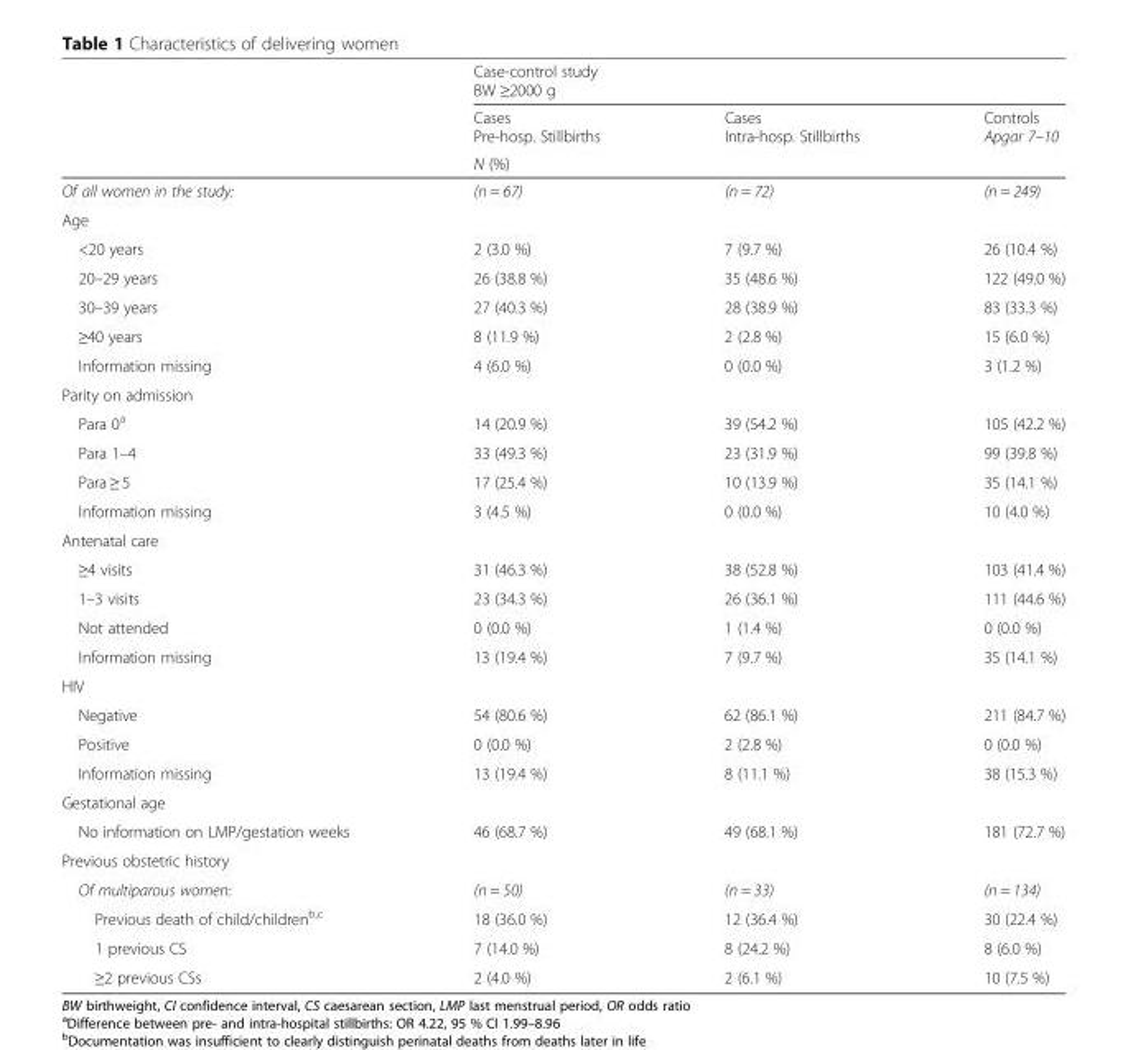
<table><thead><tr><td rowspan="3"></td><td colspan="3">Case-control study BW ≥2000 g</td></tr><tr><td>Cases Pre-hosp. Stillbirths</td><td>Cases Intra-hosp. Stillbirths</td><td>Controls Apgar 7–10</td></tr><tr><td colspan="3">N (%)</td></tr></thead><tbody><tr><td>Of all women in the study:</td><td>(n = 67)</td><td>(n = 72)</td><td>(n = 249)</td></tr><tr><td colspan="4">Age</td></tr><tr><td>&lt;20 years</td><td>2 (3.0 %)</td><td>7 (9.7 %)</td><td>26 (10.4 %)</td></tr><tr><td>20–29 years</td><td>26 (38.8 %)</td><td>35 (48.6 %)</td><td>122 (49.0 %)</td></tr><tr><td>30–39 years</td><td>27 (40.3 %)</td><td>28 (38.9 %)</td><td>83 (33.3 %)</td></tr><tr><td>≥40 years</td><td>8 (11.9 %)</td><td>2 (2.8 %)</td><td>15 (6.0 %)</td></tr><tr><td>Information missing</td><td>4 (6.0 %)</td><td>0 (0.0 %)</td><td>3 (1.2 %)</td></tr><tr><td colspan="4">Parity on admission</td></tr><tr><td>Para 0<sup>a</sup></td><td>14 (20.9 %)</td><td>39 (54.2 %)</td><td>105 (42.2 %)</td></tr><tr><td>Para 1–4</td><td>33 (49.3 %)</td><td>23 (31.9 %)</td><td>99 (39.8 %)</td></tr><tr><td>Para ≥ 5</td><td>17 (25.4 %)</td><td>10 (13.9 %)</td><td>35 (14.1 %)</td></tr><tr><td>Information missing</td><td>3 (4.5 %)</td><td>0 (0.0 %)</td><td>10 (4.0 %)</td></tr><tr><td colspan="4">Antenatal care</td></tr><tr><td>≥4 visits</td><td>31 (46.3 %)</td><td>38 (52.8 %)</td><td>103 (41.4 %)</td></tr><tr><td>1–3 visits</td><td>23 (34.3 %)</td><td>26 (36.1 %)</td><td>111 (44.6 %)</td></tr><tr><td>Not attended</td><td>0 (0.0 %)</td><td>1 (1.4 %)</td><td>0 (0.0 %)</td></tr><tr><td>Information missing</td><td>13 (19.4 %)</td><td>7 (9.7 %)</td><td>35 (14.1 %)</td></tr><tr><td colspan="4">HIV</td></tr><tr><td>Negative</td><td>54 (80.6 %)</td><td>62 (86.1 %)</td><td>211 (84.7 %)</td></tr><tr><td>Positive</td><td>0 (0.0 %)</td><td>2 (2.8 %)</td><td>0 (0.0 %)</td></tr><tr><td>Information missing</td><td>13 (19.4 %)</td><td>8 (11.1 %)</td><td>38 (15.3 %)</td></tr><tr><td colspan="4">Gestational age</td></tr><tr><td>No information on LMP/gestation weeks</td><td>46 (68.7 %)</td><td>49 (68.1 %)</td><td>181 (72.7 %)</td></tr><tr><td colspan="4">Previous obstetric history</td></tr><tr><td>Of multiparous women:</td><td>(n = 50)</td><td>(n = 33)</td><td>(n = 134)</td></tr><tr><td>Previous death of child/children<sup>b,c</sup></td><td>18 (36.0 %)</td><td>12 (36.4 %)</td><td>30 (22.4 %)</td></tr><tr><td>1 previous CS</td><td>7 (14.0 %)</td><td>8 (24.2 %)</td><td>8 (6.0 %)</td></tr><tr><td>≥2 previous CSs</td><td>2 (4.0 %)</td><td>2 (6.1 %)</td><td>10 (7.5 %)</td></tr></tbody></table>